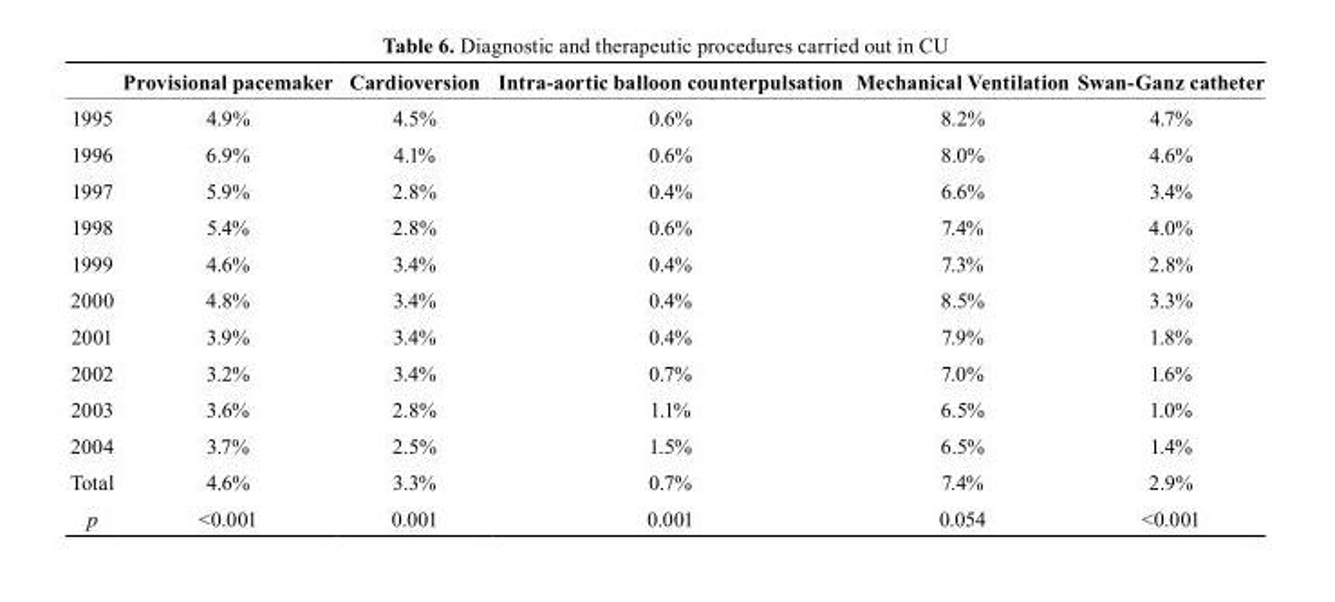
<table><thead><tr><td></td><td>Provisional pacemaker</td><td>cardioversion</td><td>Intra-aortic balloon counterpulsation</td><td>Mechanical Ventilation</td><td>swan-Ganz catheter</td></tr></thead><tbody><tr><td>1995</td><td>4.9%</td><td>4.5%</td><td>0.6%</td><td>8.2%</td><td>4.7%</td></tr><tr><td>1996</td><td>6.9%</td><td>4.1%</td><td>0.6%</td><td>8.0%</td><td>4.6%</td></tr><tr><td>1997</td><td>5.9%</td><td>2.8%</td><td>0.4%</td><td>6.6%</td><td>3.4%</td></tr><tr><td>1998</td><td>5.4%</td><td>2.8%</td><td>0.6%</td><td>7.4%</td><td>4.0%</td></tr><tr><td>1999</td><td>4.6%</td><td>3.4%</td><td>0.4%</td><td>7.3%</td><td>2.8%</td></tr><tr><td>2000</td><td>4.8%</td><td>3.4%</td><td>0.4%</td><td>8.5%</td><td>3.3%</td></tr><tr><td>2001</td><td>3.9%</td><td>3.4%</td><td>0.4%</td><td>7.9%</td><td>1.8%</td></tr><tr><td>2002</td><td>3.2%</td><td>3.4%</td><td>0.7%</td><td>7.0%</td><td>1.6%</td></tr><tr><td>2003</td><td>3.6%</td><td>2.8%</td><td>1.1%</td><td>6.5%</td><td>1.0%</td></tr><tr><td>2004</td><td>3.7%</td><td>2.5%</td><td>1.5%</td><td>6.5%</td><td>1.4%</td></tr><tr><td>Total</td><td>4.6%</td><td>3.3%</td><td>0.7%</td><td>7.4%</td><td>2.9%</td></tr><tr><td>p</td><td>&lt;0.001</td><td>0.001</td><td>0.001</td><td>0.054</td><td>&lt;0.001</td></tr></tbody></table>